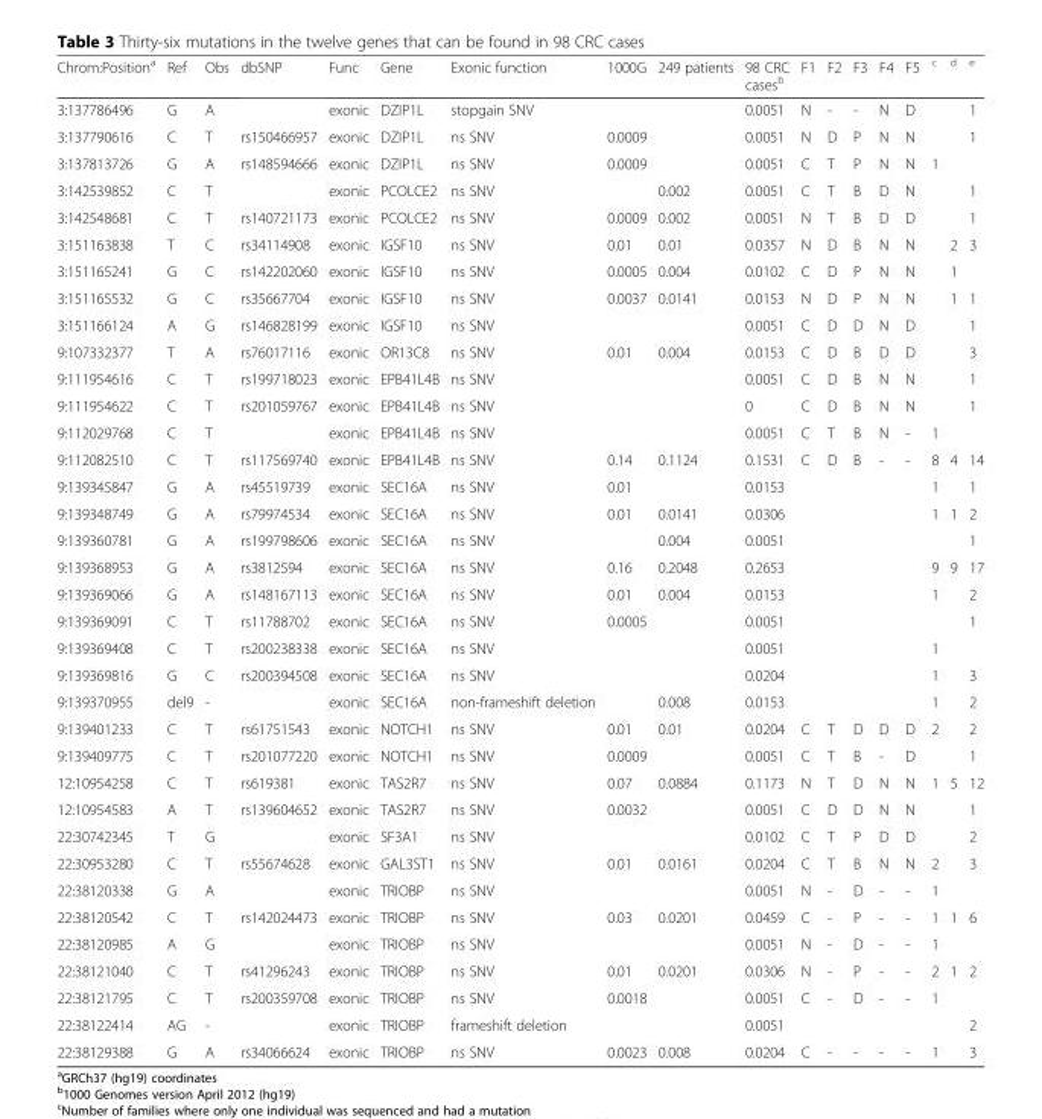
<table><thead><tr><td>Chrom:Position<sup>a</sup></td><td>Ref</td><td>Obs</td><td>dbSNP</td><td>Func</td><td>Gene</td><td>Exonic function</td><td>1000G</td><td>249 patients</td><td>98 CRC cases<sup>b</sup></td><td>F1</td><td>F2</td><td>F3</td><td>F4</td><td>F5</td><td><sup>c</sup></td><td><sup>d</sup></td><td><sup>e</sup></td></tr></thead><tbody><tr><td>3:137786496</td><td>G</td><td>A</td><td></td><td>exonic</td><td>DZIP1L</td><td>stopgain SNV</td><td></td><td></td><td>0.0051</td><td>N</td><td>-</td><td>-</td><td>N</td><td>D</td><td></td><td></td><td>1</td></tr><tr><td>3:137790616</td><td>C</td><td>T</td><td>rs150466957</td><td>exonic</td><td>DZIP1L</td><td>ns SNV</td><td>0.0009</td><td></td><td>0.0051</td><td>N</td><td>D</td><td>P</td><td>N</td><td>N</td><td></td><td></td><td>1</td></tr><tr><td>3:137813726</td><td>G</td><td>A</td><td>rs148594666</td><td>exonic</td><td>DZIP1L</td><td>ns SNV</td><td>0.0009</td><td></td><td>0.0051</td><td>C</td><td>T</td><td>P</td><td>N</td><td>N</td><td>1</td><td></td><td></td></tr><tr><td>3:142539852</td><td>C</td><td>T</td><td></td><td>exonic</td><td>PCOLCE2</td><td>ns SNV</td><td></td><td>0.002</td><td>0.0051</td><td>C</td><td>T</td><td>B</td><td>D</td><td>N</td><td></td><td></td><td>1</td></tr><tr><td>3:142548681</td><td>C</td><td>T</td><td>rs140721173</td><td>exonic</td><td>PCOLCE2</td><td>ns SNV</td><td>0.0009</td><td>0.002</td><td>0.0051</td><td>N</td><td>T</td><td>B</td><td>D</td><td>D</td><td></td><td></td><td>1</td></tr><tr><td>3:151163838</td><td>T</td><td>C</td><td>rs34114908</td><td>exonic</td><td>IGSF10</td><td>ns SNV</td><td>0.01</td><td>0.01</td><td>0.0357</td><td>N</td><td>D</td><td>B</td><td>N</td><td>N</td><td></td><td>2</td><td>3</td></tr><tr><td>3:151165241</td><td>G</td><td>C</td><td>rs142202060</td><td>exonic</td><td>IGSF10</td><td>ns SNV</td><td>0.0005</td><td>0.004</td><td>0.0102</td><td>C</td><td>D</td><td>P</td><td>N</td><td>N</td><td></td><td>1</td><td></td></tr><tr><td>3:151165532</td><td>G</td><td>C</td><td>rs35667704</td><td>exonic</td><td>IGSF10</td><td>ns SNV</td><td>0.0037</td><td>0.0141</td><td>0.0153</td><td>N</td><td>D</td><td>P</td><td>N</td><td>N</td><td></td><td>1</td><td>1</td></tr><tr><td>3:151166124</td><td>A</td><td>G</td><td>rs146828199</td><td>exonic</td><td>IGSF10</td><td>ns SNV</td><td></td><td></td><td>0.0051</td><td>C</td><td>D</td><td>D</td><td>N</td><td>D</td><td></td><td></td><td>1</td></tr><tr><td>9:107332377</td><td>T</td><td>A</td><td>rs76017116</td><td>exonic</td><td>OR13C8</td><td>ns SNV</td><td>0.01</td><td>0.004</td><td>0.0153</td><td>C</td><td>D</td><td>B</td><td>D</td><td>D</td><td></td><td></td><td>3</td></tr><tr><td>9:111954616</td><td>C</td><td>T</td><td>rs199718023</td><td>exonic</td><td>EPB41L4B</td><td>ns SNV</td><td></td><td></td><td>0.0051</td><td>C</td><td>D</td><td>B</td><td>N</td><td>N</td><td></td><td></td><td>1</td></tr><tr><td>9:111954622</td><td>C</td><td>T</td><td>rs201059767</td><td>exonic</td><td>EPB41L4B</td><td>ns SNV</td><td></td><td></td><td>0</td><td>C</td><td>D</td><td>B</td><td>N</td><td>N</td><td></td><td></td><td>1</td></tr><tr><td>9:112029768</td><td>C</td><td>T</td><td></td><td>exonic</td><td>EPB41L4B</td><td>ns SNV</td><td></td><td></td><td>0.0051</td><td>C</td><td>T</td><td>B</td><td>N</td><td>-</td><td>1</td><td></td><td></td></tr><tr><td>9:112082510</td><td>C</td><td>T</td><td>rs117569740</td><td>exonic</td><td>EPB41L4B</td><td>ns SNV</td><td>0.14</td><td>0.1124</td><td>0.1531</td><td>C</td><td>D</td><td>B</td><td>-</td><td>-</td><td>8</td><td>4</td><td>14</td></tr><tr><td>9:139345847</td><td>G</td><td>A</td><td>rs45519739</td><td>exonic</td><td>SEC16A</td><td>ns SNV</td><td>0.01</td><td></td><td>0.0153</td><td></td><td></td><td></td><td></td><td></td><td>1</td><td></td><td>1</td></tr><tr><td>9:139348749</td><td>G</td><td>A</td><td>rs79974534</td><td>exonic</td><td>SEC16A</td><td>ns SNV</td><td>0.01</td><td>0.0141</td><td>0.0306</td><td></td><td></td><td></td><td></td><td></td><td>1</td><td>1</td><td>2</td></tr><tr><td>9:139360781</td><td>G</td><td>A</td><td>rs199798606</td><td>exonic</td><td>SEC16A</td><td>ns SNV</td><td></td><td>0.004</td><td>0.0051</td><td></td><td></td><td></td><td></td><td></td><td></td><td></td><td>1</td></tr><tr><td>9:139368953</td><td>G</td><td>A</td><td>rs3812594</td><td>exonic</td><td>SEC16A</td><td>ns SNV</td><td>0.16</td><td>0.2048</td><td>0.2653</td><td></td><td></td><td></td><td></td><td></td><td>9</td><td>9</td><td>17</td></tr><tr><td>9:139369066</td><td>G</td><td>A</td><td>rs148167113</td><td>exonic</td><td>SEC16A</td><td>ns SNV</td><td>0.01</td><td>0.004</td><td>0.0153</td><td></td><td></td><td></td><td></td><td></td><td>1</td><td></td><td>2</td></tr><tr><td>9:139369091</td><td>C</td><td>T</td><td>rs11788702</td><td>exonic</td><td>SEC16A</td><td>ns SNV</td><td>0.0005</td><td></td><td>0.0051</td><td></td><td></td><td></td><td></td><td></td><td></td><td></td><td>1</td></tr><tr><td>9:139369408</td><td>C</td><td>T</td><td>rs200238338</td><td>exonic</td><td>SEC16A</td><td>ns SNV</td><td></td><td></td><td>0.0051</td><td></td><td></td><td></td><td></td><td></td><td>1</td><td></td><td></td></tr><tr><td>9:139369816</td><td>G</td><td>C</td><td>rs200394508</td><td>exonic</td><td>SEC16A</td><td>ns SNV</td><td></td><td></td><td>0.0204</td><td></td><td></td><td></td><td></td><td></td><td>1</td><td></td><td>3</td></tr><tr><td>9:139370955</td><td>del9</td><td>-</td><td></td><td>exonic</td><td>SEC16A</td><td>non-frameshift deletion</td><td></td><td>0.008</td><td>0.0153</td><td></td><td></td><td></td><td></td><td></td><td>1</td><td></td><td>2</td></tr><tr><td>9:139401233</td><td>C</td><td>T</td><td>rs61751543</td><td>exonic</td><td>NOTCH1</td><td>ns SNV</td><td>0.01</td><td>0.01</td><td>0.0204</td><td>C</td><td>T</td><td>D</td><td>D</td><td>D</td><td>2</td><td></td><td>2</td></tr><tr><td>9:139409775</td><td>C</td><td>T</td><td>rs201077220</td><td>exonic</td><td>NOTCH1</td><td>ns SNV</td><td>0.0009</td><td></td><td>0.0051</td><td>C</td><td>T</td><td>B</td><td>-</td><td>D</td><td></td><td></td><td>1</td></tr><tr><td>12:10954258</td><td>C</td><td>T</td><td>rs619381</td><td>exonic</td><td>TAS2R7</td><td>ns SNV</td><td>0.07</td><td>0.0884</td><td>0.1173</td><td>N</td><td>T</td><td>D</td><td>N</td><td>N</td><td>1</td><td>5</td><td>12</td></tr><tr><td>12:10954583</td><td>A</td><td>T</td><td>rs139604652</td><td>exonic</td><td>TAS2R7</td><td>ns SNV</td><td>0.0032</td><td></td><td>0.0051</td><td>C</td><td>D</td><td>D</td><td>N</td><td>N</td><td></td><td></td><td>1</td></tr><tr><td>22:30742345</td><td>T</td><td>G</td><td></td><td>exonic</td><td>SF3A1</td><td>ns SNV</td><td></td><td></td><td>0.0102</td><td>C</td><td>T</td><td>P</td><td>D</td><td>D</td><td></td><td></td><td>2</td></tr><tr><td>22:30953280</td><td>C</td><td>T</td><td>rs55674628</td><td>exonic</td><td>GAL3ST1</td><td>ns SNV</td><td>0.01</td><td>0.0161</td><td>0.0204</td><td>C</td><td>T</td><td>B</td><td>N</td><td>N</td><td>2</td><td></td><td>3</td></tr><tr><td>22:38120338</td><td>G</td><td>A</td><td></td><td>exonic</td><td>TRIOBP</td><td>ns SNV</td><td></td><td></td><td>0.0051</td><td>N</td><td>-</td><td>D</td><td>-</td><td>-</td><td>1</td><td></td><td></td></tr><tr><td>22:38120542</td><td>C</td><td>T</td><td>rs142024473</td><td>exonic</td><td>TRIOBP</td><td>ns SNV</td><td>0.03</td><td>0.0201</td><td>0.0459</td><td>C</td><td>-</td><td>P</td><td>-</td><td>-</td><td>1</td><td>1</td><td>6</td></tr><tr><td>22:38120985</td><td>A</td><td>G</td><td></td><td>exonic</td><td>TRIOBP</td><td>ns SNV</td><td></td><td></td><td>0.0051</td><td>N</td><td>-</td><td>D</td><td>-</td><td>-</td><td>1</td><td></td><td></td></tr><tr><td>22:38121040</td><td>C</td><td>T</td><td>rs41296243</td><td>exonic</td><td>TRIOBP</td><td>ns SNV</td><td>0.01</td><td>0.0201</td><td>0.0306</td><td>N</td><td>-</td><td>P</td><td>-</td><td>-</td><td>2</td><td>1</td><td>2</td></tr><tr><td>22:38121795</td><td>C</td><td>T</td><td>rs200359708</td><td>exonic</td><td>TRIOBP</td><td>ns SNV</td><td>0.0018</td><td></td><td>0.0051</td><td>C</td><td>-</td><td>D</td><td>-</td><td>-</td><td>1</td><td></td><td></td></tr><tr><td>22:38122414</td><td>AG</td><td>-</td><td></td><td>exonic</td><td>TRIOBP</td><td>frameshift deletion</td><td></td><td></td><td>0.0051</td><td></td><td></td><td></td><td></td><td></td><td></td><td></td><td>2</td></tr><tr><td>22:38129388</td><td>G</td><td>A</td><td>rs34066624</td><td>exonic</td><td>TRIOBP</td><td>ns SNV</td><td>0.0023</td><td>0.008</td><td>0.0204</td><td>C</td><td>-</td><td>-</td><td>-</td><td>-</td><td>1</td><td></td><td>3</td></tr></tbody></table>